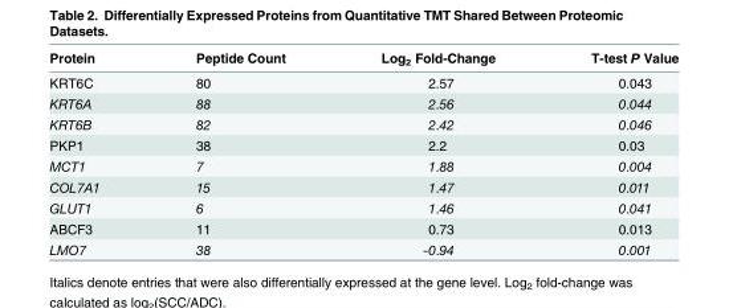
<table><thead><tr><td>Protein</td><td>Peptide Count</td><td>Log<sub>2</sub> Fold-Change</td><td>T-test P Value</td></tr></thead><tbody><tr><td>KRT6C</td><td>80</td><td>2.57</td><td>0.043</td></tr><tr><td>KRT6A</td><td>88</td><td>2.56</td><td>0.044</td></tr><tr><td>KRT6B</td><td>82</td><td>2.42</td><td>0.046</td></tr><tr><td>PKP1</td><td>38</td><td>2.2</td><td>0.03</td></tr><tr><td>MCT1</td><td>7</td><td>1.88</td><td>0.004</td></tr><tr><td>COL7A1</td><td>15</td><td>1.47</td><td>0.011</td></tr><tr><td>GLUT1</td><td>6</td><td>1.46</td><td>0.041</td></tr><tr><td>ABCF3</td><td>11</td><td>0.73</td><td>0.013</td></tr><tr><td>LMO7</td><td>38</td><td>-0.94</td><td>0.001</td></tr></tbody></table>